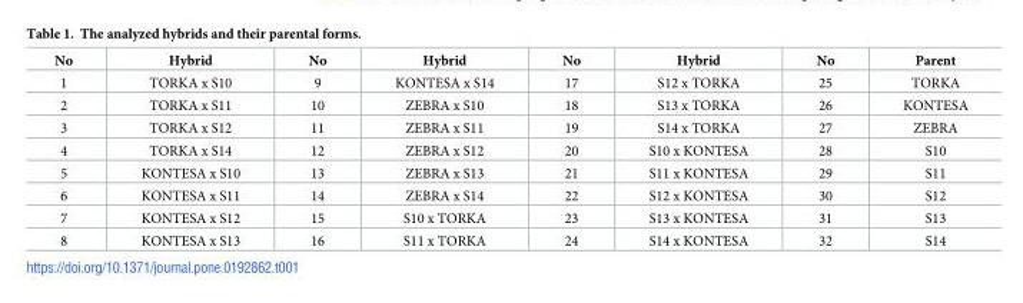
<table><thead><tr><td>No</td><td>Hybrid</td><td>No</td><td>Hybrid</td><td>No</td><td>Hybrid</td><td>No</td><td>Parent</td></tr></thead><tbody><tr><td>1</td><td>TORKA x S10</td><td>9</td><td>KONTESA x S14</td><td>17</td><td>S12 x TORKA</td><td>25</td><td>TORKA</td></tr><tr><td>2</td><td>TORKA x S11</td><td>10</td><td>ZEBRA x S10</td><td>18</td><td>S13 x TORKA</td><td>26</td><td>KONTESA</td></tr><tr><td>3</td><td>TORKA x S12</td><td>11</td><td>ZEBRA x S11</td><td>19</td><td>S14 x TORKA</td><td>27</td><td>ZEBRA</td></tr><tr><td>4</td><td>TORKA x S14</td><td>12</td><td>ZEBRA x S12</td><td>20</td><td>S10 x KONTESA</td><td>28</td><td>S10</td></tr><tr><td>5</td><td>KONTESA x S10</td><td>13</td><td>ZEBRA x S13</td><td>21</td><td>S11 x KONTESA</td><td>29</td><td>S11</td></tr><tr><td>6</td><td>KONTESA x S11</td><td>14</td><td>ZEBRA x S14</td><td>22</td><td>S12 x KONTESA</td><td>30</td><td>S12</td></tr><tr><td>7</td><td>KONTESA x S12</td><td>15</td><td>S10 x TORKA</td><td>23</td><td>S13 x KONTESA</td><td>31</td><td>S13</td></tr><tr><td>8</td><td>KONTESA x S13</td><td>16</td><td>S11 x TORKA</td><td>24</td><td>S14 x KONTESA</td><td>32</td><td>S14</td></tr></tbody></table>